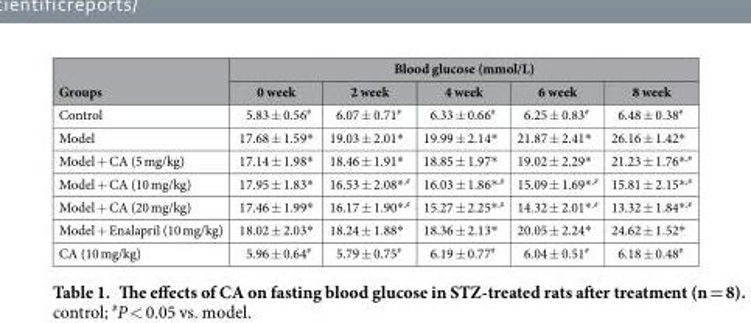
<table><thead><tr><td rowspan="2">Groups</td><td colspan="5">Blood glucose (mmol/L)</td></tr><tr><td>0 week</td><td>2 week</td><td>4 week</td><td>6 week</td><td>8 week</td></tr></thead><tbody><tr><td>Control</td><td>5.83 ± 0.56<sup>#</sup></td><td>6.07 ± 0.71<sup>#</sup></td><td>6.33 ± 0.66<sup>#</sup></td><td>6.25 ± 0.83<sup>#</sup></td><td>6.48 ± 0.38<sup>#</sup></td></tr><tr><td>Model</td><td>17.68 ± 1.59*</td><td>19.03 ± 2.01*</td><td>19.99 ± 2.14*</td><td>21.87 ± 2.41*</td><td>26.16 ± 1.42*</td></tr><tr><td>Model + CA (5 mg/kg)</td><td>17.14 ± 1.98*</td><td>18.46 ± 1.91*</td><td>18.85 ± 1.97*</td><td>19.02 ± 2.29*</td><td>21.23 ± 1.76* <sup>,#</sup></td></tr><tr><td>Model + CA (10 mg/kg)</td><td>17.95 ± 1.83*</td><td>16.53 ± 2.08* <sup>,#</sup></td><td>16.03 ± 1.86* <sup>,#</sup></td><td>15.09 ± 1.69* <sup>,#</sup></td><td>15.81 ± 2.15* <sup>,#</sup></td></tr><tr><td>Model + CA (20 mg/kg)</td><td>17.46 ± 1.99*</td><td>16.17 ± 1.90* <sup>,#</sup></td><td>15.27 ± 2.25* <sup>,#</sup></td><td>14.32 ± 2.01* <sup>,#</sup></td><td>13.32 ± 1.84* <sup>,#</sup></td></tr><tr><td>Model + Enalapril (10 mg/kg)</td><td>18.02 ± 2.03*</td><td>18.24 ± 1.88*</td><td>18.36 ± 2.13*</td><td>20.05 ± 2.24*</td><td>24.62 ± 1.52*</td></tr><tr><td>CA (10 mg/kg)</td><td>5.96 ± 0.64<sup>#</sup></td><td>5.79 ± 0.75<sup>#</sup></td><td>6.19 ± 0.77<sup>#</sup></td><td>6.04 ± 0.51<sup>#</sup></td><td>6.18 ± 0.48<sup>#</sup></td></tr></tbody></table>